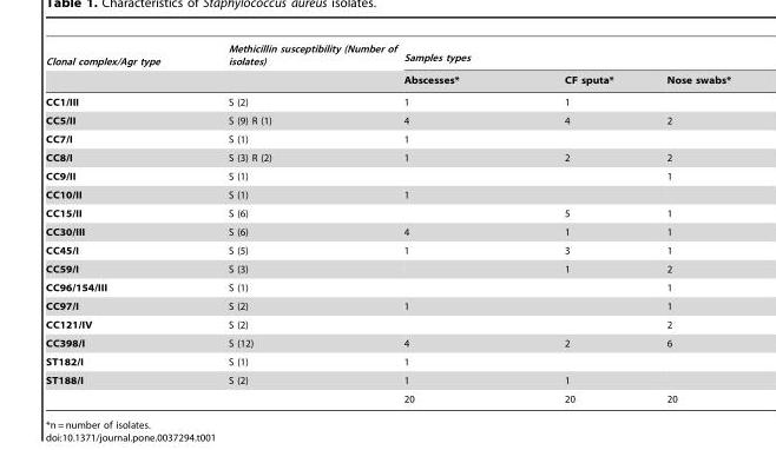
<table><thead><tr><td rowspan="2">Clonal complex/Agr type</td><td rowspan="2">Methicillin susceptibility (Number of isolates)</td><td colspan="3">Samples types</td></tr><tr><td>Abscesses*</td><td>CF sputa*</td><td>Nose swabs*</td></tr></thead><tbody><tr><td>CC1/III</td><td>S (2)</td><td>1</td><td>1</td><td></td></tr><tr><td>CC5/II</td><td>S (9) R (1)</td><td>4</td><td>4</td><td>2</td></tr><tr><td>CC7/I</td><td>S (1)</td><td>1</td><td></td><td></td></tr><tr><td>CC8/I</td><td>S (3) R (2)</td><td>1</td><td>2</td><td>2</td></tr><tr><td>CC9/II</td><td>S (1)</td><td></td><td></td><td>1</td></tr><tr><td>CC10/II</td><td>S (1)</td><td>1</td><td></td><td></td></tr><tr><td>CC15/II</td><td>S (6)</td><td></td><td>5</td><td>1</td></tr><tr><td>CC30/III</td><td>S (6)</td><td>4</td><td>1</td><td>1</td></tr><tr><td>CC45/I</td><td>S (5)</td><td>1</td><td>3</td><td>1</td></tr><tr><td>CC59/I</td><td>S (3)</td><td></td><td>1</td><td>2</td></tr><tr><td>CC96/154/III</td><td>S (1)</td><td></td><td></td><td>1</td></tr><tr><td>CC97/I</td><td>S (2)</td><td>1</td><td></td><td>1</td></tr><tr><td>CC121/IV</td><td>S (2)</td><td></td><td></td><td>2</td></tr><tr><td>CC398/I</td><td>S (12)</td><td>4</td><td>2</td><td>6</td></tr><tr><td>ST182/I</td><td>S (1)</td><td>1</td><td></td><td></td></tr><tr><td rowspan="2">ST188/I</td><td>S (2)</td><td>1</td><td>1</td><td></td></tr><tr><td></td><td>20</td><td>20</td><td>20</td></tr></tbody></table>